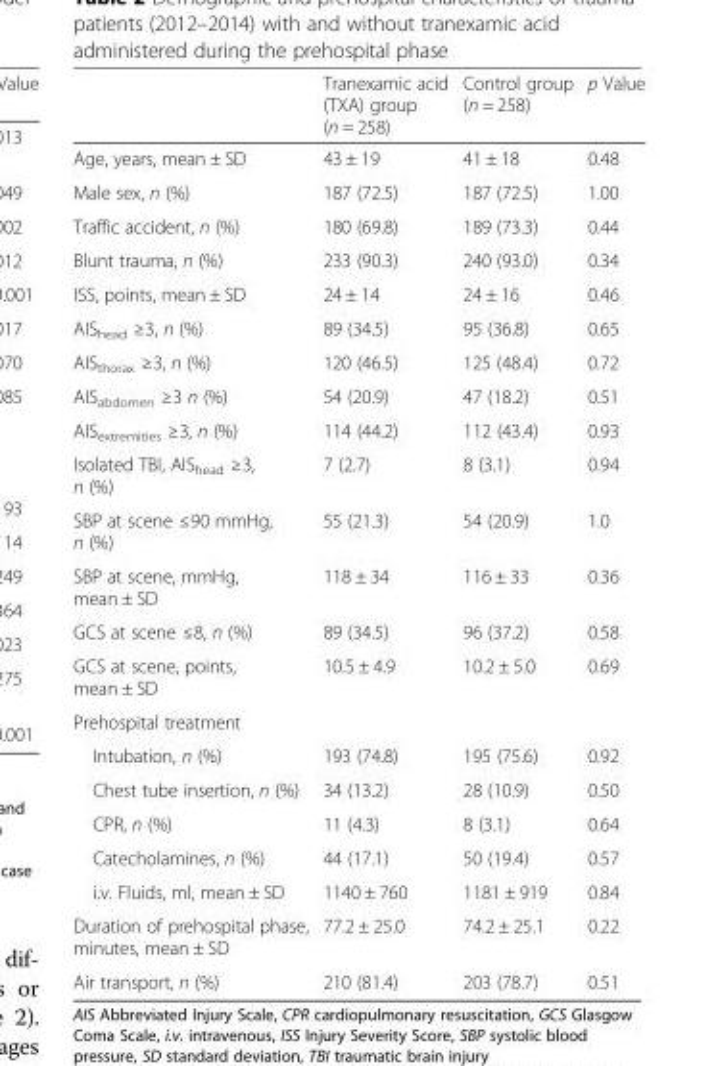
<table><thead><tr><td></td><td>Tranexamic acid (TXA) group (n = 258)</td><td>Control group (n = 258)</td><td>p Value</td></tr></thead><tbody><tr><td>Age, years, mean ± SD</td><td>43 ± 19</td><td>41 ± 18</td><td>0.48</td></tr><tr><td>Male sex, n (%)</td><td>187 (72.5)</td><td>187 (72.5)</td><td>1.00</td></tr><tr><td>Traffic accident, n (%)</td><td>180 (69.8)</td><td>189 (73.3)</td><td>0.44</td></tr><tr><td>Blunt trauma, n (%)</td><td>233 (90.3)</td><td>240 (93.0)</td><td>0.34</td></tr><tr><td>ISS, points, mean ± SD</td><td>24 ± 14</td><td>24 ± 16</td><td>0.46</td></tr><tr><td>AIS<sub>head</sub> ≥3, n (%)</td><td>89 (34.5)</td><td>95 (36.8)</td><td>0.65</td></tr><tr><td>AIS<sub>thorax</sub> ≥3, n (%)</td><td>120 (46.5)</td><td>125 (48.4)</td><td>0.72</td></tr><tr><td>AIS<sub>abdomen</sub> ≥3 n (%)</td><td>54 (20.9)</td><td>47 (18.2)</td><td>0.51</td></tr><tr><td>AIS<sub>extremities</sub> ≥3, n (%)</td><td>114 (44.2)</td><td>112 (43.4)</td><td>0.93</td></tr><tr><td>Isolated TBI, AIS<sub>head</sub> ≥3, n (%)</td><td>7 (2.7)</td><td>8 (3.1)</td><td>0.94</td></tr><tr><td>SBP at scene ≤90 mmHg, n (%)</td><td>55 (21.3)</td><td>54 (20.9)</td><td>1.0</td></tr><tr><td>SBP at scene, mmHg, mean ± SD</td><td>118 ± 34</td><td>116 ± 33</td><td>0.36</td></tr><tr><td>GCS at scene ≤8, n (%)</td><td>89 (34.5)</td><td>96 (37.2)</td><td>0.58</td></tr><tr><td>GCS at scene, points, mean ± SD</td><td>10.5 ± 4.9</td><td>10.2 ± 5.0</td><td>0.69</td></tr><tr><td colspan="4">Prehospital treatment</td></tr><tr><td>Intubation, n (%)</td><td>193 (74.8)</td><td>195 (75.6)</td><td>0.92</td></tr><tr><td>Chest tube insertion, n (%)</td><td>34 (13.2)</td><td>28 (10.9)</td><td>0.50</td></tr><tr><td>CPR, n (%)</td><td>11 (4.3)</td><td>8 (3.1)</td><td>0.64</td></tr><tr><td>Catecholamines, n (%)</td><td>44 (17.1)</td><td>50 (19.4)</td><td>0.57</td></tr><tr><td>i.v. Fluids, ml, mean ± SD</td><td>1140 ± 760</td><td>1181 ± 919</td><td>0.84</td></tr><tr><td>Duration of prehospital phase, minutes, mean ± SD</td><td>77.2 ± 25.0</td><td>74.2 ± 25.1</td><td>0.22</td></tr><tr><td>Air transport, n (%)</td><td>210 (81.4)</td><td>203 (78.7)</td><td>0.51</td></tr></tbody></table>